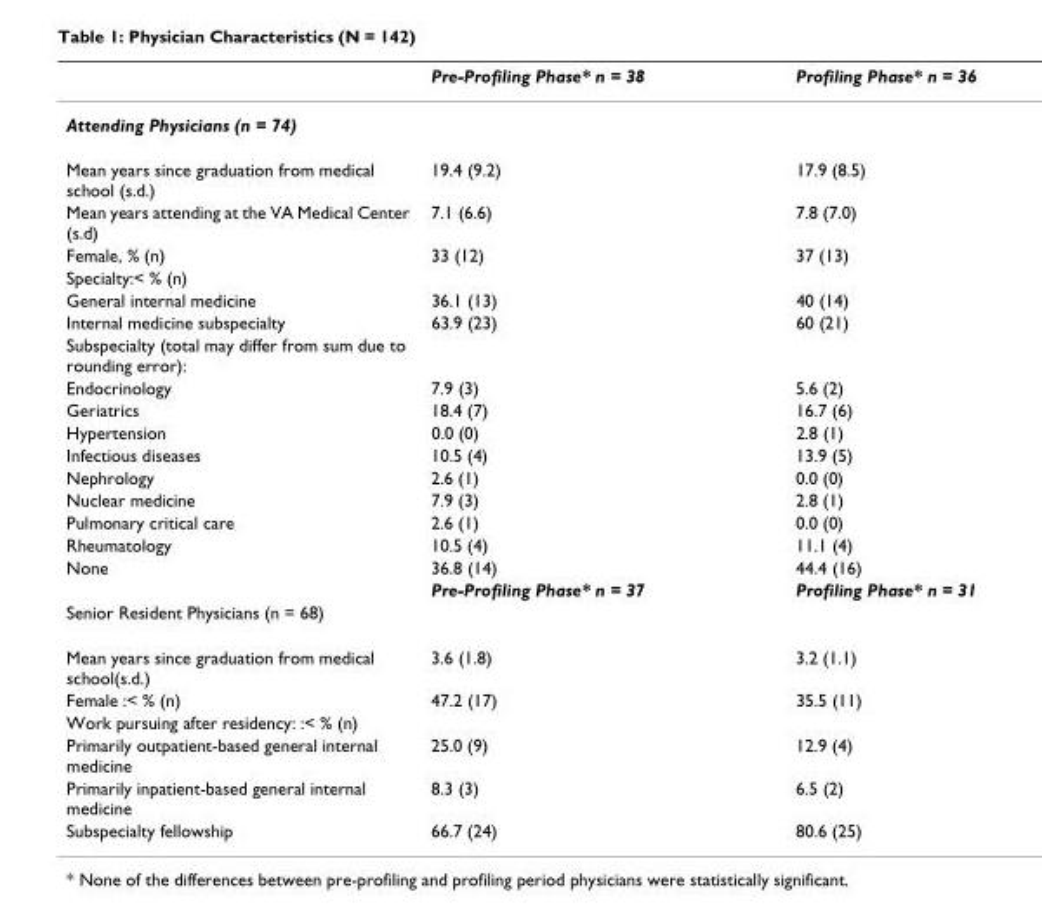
<table><thead><tr><td></td><td>Pre-Profiling Phase* n = 38</td><td>Profiling Phase* n = 36</td></tr></thead><tbody><tr><td colspan="3">Attending Physicians (n = 74)</td></tr><tr><td>Mean years since graduation from medical school (s.d.)</td><td>19.4 (9.2)</td><td>17.9 (8.5)</td></tr><tr><td>Mean years attending at the VA Medical Center (s.d)</td><td>7.1 (6.6)</td><td>7.8 (7.0)</td></tr><tr><td>Female, % (n)</td><td>33 (12)</td><td>37 (13)</td></tr><tr><td colspan="3">Specialty:&lt; % (n)</td></tr><tr><td>General internal medicine</td><td>36.1 (13)</td><td>40 (14)</td></tr><tr><td>Internal medicine subspecialty</td><td>63.9 (23)</td><td>60 (21)</td></tr><tr><td colspan="3">Subspecialty (total may differ from sum due to rounding error):</td></tr><tr><td>Endocrinology</td><td>7.9 (3)</td><td>5.6 (2)</td></tr><tr><td>Geriatrics</td><td>18.4 (7)</td><td>16.7 (6)</td></tr><tr><td>Hypertension</td><td>0.0 (0)</td><td>2.8 (1)</td></tr><tr><td>Infectious diseases</td><td>10.5 (4)</td><td>13.9 (5)</td></tr><tr><td>Nephrology</td><td>2.6 (1)</td><td>0.0 (0)</td></tr><tr><td>Nuclear medicine</td><td>7.9 (3)</td><td>2.8 (1)</td></tr><tr><td>Pulmonary critical care</td><td>2.6 (1)</td><td>0.0 (0)</td></tr><tr><td>Rheumatology</td><td>10.5 (4)</td><td>11.1 (4)</td></tr><tr><td rowspan="2">None</td><td>36.8 (14)</td><td>44.4 (16)</td></tr><tr><td>Pre-Profiling Phase* n = 37</td><td>Profiling Phase* n = 31</td></tr><tr><td colspan="3">Senior Resident Physicians (n = 68)</td></tr><tr><td>Mean years since graduation from medical school(s.d.)</td><td>3.6 (1.8)</td><td>3.2 (1.1)</td></tr><tr><td>Female :&lt; % (n)</td><td>47.2 (17)</td><td>35.5 (11)</td></tr><tr><td colspan="3">Work pursuing after residency: :&lt; % (n)</td></tr><tr><td>Primarily outpatient-based general internal medicine</td><td>25.0 (9)</td><td>12.9 (4)</td></tr><tr><td>Primarily inpatient-based general internal medicine</td><td>8.3 (3)</td><td>6.5 (2)</td></tr><tr><td>Subspecialty fellowship</td><td>66.7 (24)</td><td>80.6 (25)</td></tr></tbody></table>